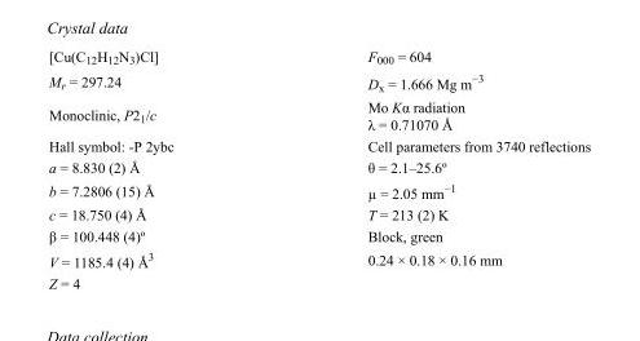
<table><tbody><tr><td>[Cu(C<sub>12</sub>H<sub>12</sub>N<sub>3</sub>)Cl]</td><td>F<sub>000</sub> = 604</td></tr><tr><td>M<sub>r</sub> = 297.24</td><td>D<sub>x</sub> = 1.666 Mg m<sup>−3</sup></td></tr><tr><td>Monoclinic, P2<sub>1</sub>/c</td><td>Mo Kα radiation λ = 0.71070 Å</td></tr><tr><td>Hall symbol: -P 2ybc</td><td>Cell parameters from 3740 reflections</td></tr><tr><td>a = 8.830 (2) Å</td><td>θ = 2.1–25.6º</td></tr><tr><td>b = 7.2806 (15) Å</td><td>µ = 2.05 mm<sup>−1</sup></td></tr><tr><td>c = 18.750 (4) Å</td><td>T = 213 (2) K</td></tr><tr><td>β = 100.448 (4)º</td><td>Block, green</td></tr><tr><td>V = 1185.4 (4) Å<sup>3</sup></td><td>0.24 × 0.18 × 0.16 mm</td></tr><tr><td>Z = 4</td><td></td></tr></tbody></table>